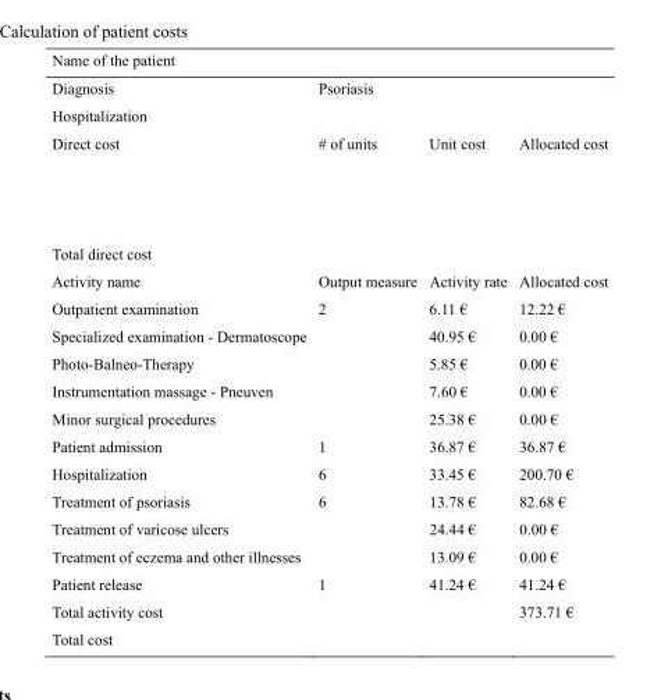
<table><thead><tr><td>Name of the patient</td><td></td><td></td><td></td></tr></thead><tbody><tr><td>Diagnosis</td><td colspan="3">Psoriasis</td></tr><tr><td colspan="4">Hospitalization</td></tr><tr><td>Direct cost</td><td># of units</td><td>Unit cost</td><td>Allocated cost</td></tr><tr><td colspan="4">Total direct cost</td></tr><tr><td>Activity name</td><td>Output measure</td><td>Activity rate</td><td>Allocated cost</td></tr><tr><td>Outpatient examination</td><td>2</td><td>6.11 €</td><td>12.22 €</td></tr><tr><td>Specialized examination - Dermatoscope</td><td></td><td>40.95 €</td><td>0.00 €</td></tr><tr><td>Photo-Balneo-Therapy</td><td></td><td>5.85 €</td><td>0.00 €</td></tr><tr><td>Instrumentation massage - Pneuven</td><td></td><td>7.60 €</td><td>0.00 €</td></tr><tr><td>Minor surgical procedures</td><td></td><td>25.38 €</td><td>0.00 €</td></tr><tr><td>Patient admission</td><td>1</td><td>36.87 €</td><td>36.87 €</td></tr><tr><td>Hospitalization</td><td>6</td><td>33.45 €</td><td>200.70 €</td></tr><tr><td>Treatment of psoriasis</td><td>6</td><td>13.78 €</td><td>82.68 €</td></tr><tr><td>Treatment of varicose ulcers</td><td></td><td>24.44 €</td><td>0.00 €</td></tr><tr><td>Treatment of eczema and other illnesses</td><td></td><td>13.09 €</td><td>0.00 €</td></tr><tr><td>Patient release</td><td>1</td><td>41.24 €</td><td>41.24 €</td></tr><tr><td>Total activity cost</td><td></td><td></td><td>373.71 €</td></tr><tr><td>Total cost</td><td></td><td></td><td></td></tr></tbody></table>